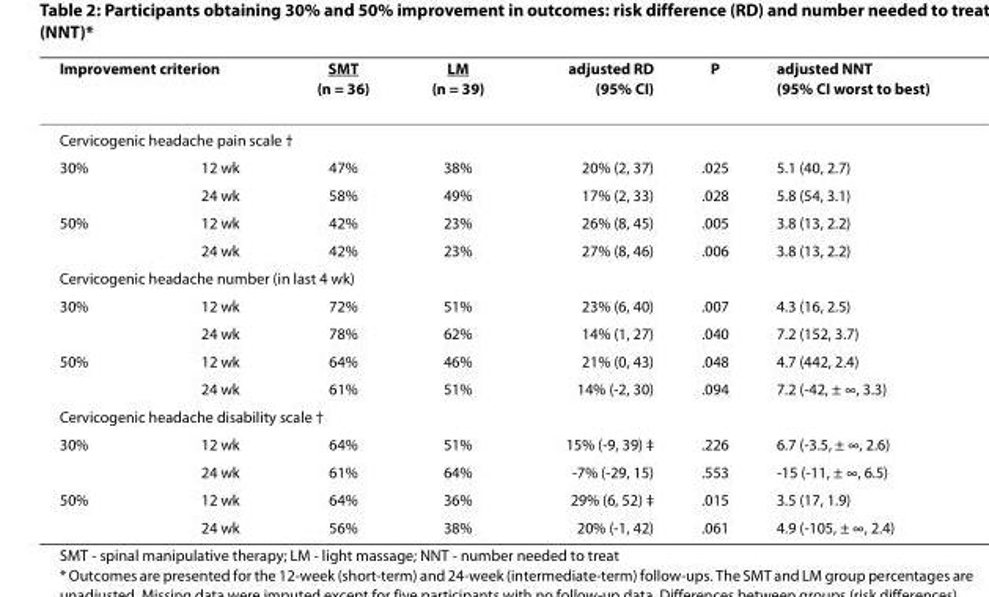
<table><thead><tr><td colspan="2">Improvement criterion</td><td>SMT (n = 36)</td><td>LM (n = 39)</td><td>adjusted RD (95% CI)</td><td>P</td><td>adjusted NNT (95% CI worst to best)</td></tr><tr><td colspan="7">Cervicogenic headache pain scale †</td></tr><tr><td>30%</td><td>12 wk</td><td>47%</td><td>38%</td><td>20% (2, 37)</td><td>.025</td><td>5.1 (40, 2.7)</td></tr></thead><tbody><tr><td></td><td>24 wk</td><td>58%</td><td>49%</td><td>17% (2, 33)</td><td>.028</td><td>5.8 (54, 3.1)</td></tr><tr><td rowspan="2">50%</td><td>12 wk</td><td>42%</td><td>23%</td><td>26% (8, 45)</td><td>.005</td><td>3.8 (13, 2.2)</td></tr><tr><td>24 wk</td><td>42%</td><td>23%</td><td>27% (8, 46)</td><td>.006</td><td>3.8 (13, 2.2)</td></tr><tr><td colspan="7">Cervicogenic headache number (in last 4 wk)</td></tr><tr><td rowspan="2">30%</td><td>12 wk</td><td>72%</td><td>51%</td><td>23% (6, 40)</td><td>.007</td><td>4.3 (16, 2.5)</td></tr><tr><td>24 wk</td><td>78%</td><td>62%</td><td>14% (1, 27)</td><td>.040</td><td>7.2 (152, 3.7)</td></tr><tr><td rowspan="2">50%</td><td>12 wk</td><td>64%</td><td>46%</td><td>21% (0, 43)</td><td>.048</td><td>4.7 (442, 2.4)</td></tr><tr><td>24 wk</td><td>61%</td><td>51%</td><td>14% (-2, 30)</td><td>.094</td><td>7.2 (-42, ± ∞, 3.3)</td></tr><tr><td colspan="7">Cervicogenic headache disability scale †</td></tr><tr><td rowspan="2">30%</td><td>12 wk</td><td>64%</td><td>51%</td><td>15% (-9, 39) ‡</td><td>.226</td><td>6.7 (-3.5, ± ∞, 2.6)</td></tr><tr><td>24 wk</td><td>61%</td><td>64%</td><td>-7% (-29, 15)</td><td>.553</td><td>-15 (-11, ± ∞, 6.5)</td></tr><tr><td rowspan="2">50%</td><td>12 wk</td><td>64%</td><td>36%</td><td>29% (6, 52) ‡</td><td>.015</td><td>3.5 (17, 1.9)</td></tr><tr><td>24 wk</td><td>56%</td><td>38%</td><td>20% (-1, 42)</td><td>.061</td><td>4.9 (-105, ± ∞, 2.4)</td></tr></tbody></table>